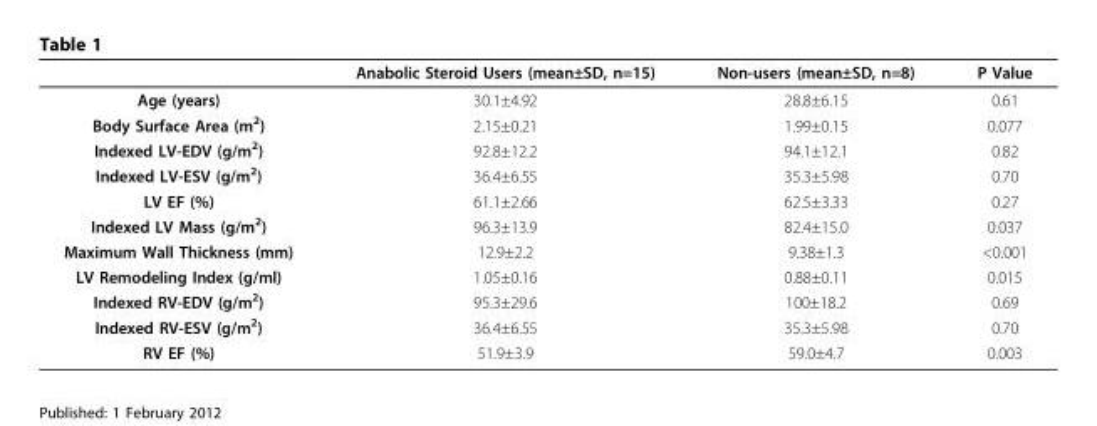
<table><thead><tr><td></td><td>Anabolic Steroid Users (mean±SD, n=15)</td><td>Non-users (mean±SD, n=8)</td><td>P Value</td></tr></thead><tbody><tr><td>Age (years)</td><td>30.1±4.92</td><td>28.8±6.15</td><td>0.61</td></tr><tr><td>Body Surface Area (m<sup>2</sup>)</td><td>2.15±0.21</td><td>1.99±0.15</td><td>0.077</td></tr><tr><td>Indexed LV-EDV (g/m<sup>2</sup>)</td><td>92.8±12.2</td><td>94.1±12.1</td><td>0.82</td></tr><tr><td>Indexed LV-ESV (g/m<sup>2</sup>)</td><td>36.4±6.55</td><td>35.3±5.98</td><td>0.70</td></tr><tr><td>LV EF (%)</td><td>61.1±2.66</td><td>62.5±3.33</td><td>0.27</td></tr><tr><td>Indexed LV Mass (g/m<sup>2</sup>)</td><td>96.3±13.9</td><td>82.4±15.0</td><td>0.037</td></tr><tr><td>Maximum Wall Thickness (mm)</td><td>12.9±2.2</td><td>9.38±1.3</td><td>&lt;0.001</td></tr><tr><td>LV Remodeling Index (g/ml)</td><td>1.05±0.16</td><td>0.88±0.11</td><td>0.015</td></tr><tr><td>Indexed RV-EDV (g/m<sup>2</sup>)</td><td>95.3±29.6</td><td>100±18.2</td><td>0.69</td></tr><tr><td>Indexed RV-ESV (g/m<sup>2</sup>)</td><td>36.4±6.55</td><td>35.3±5.98</td><td>0.70</td></tr><tr><td>RV EF (%)</td><td>51.9±3.9</td><td>59.0±4.7</td><td>0.003</td></tr></tbody></table>